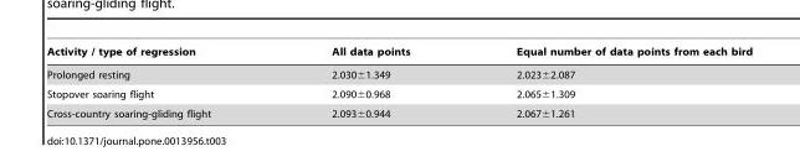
<table><thead><tr><td>Activity / type of regression</td><td>All data points</td><td>Equal number of data points from each bird</td></tr></thead><tbody><tr><td>Prolonged resting</td><td>2.030±1.349</td><td>2.023±2.087</td></tr><tr><td>Stopover soaring flight</td><td>2.090±0.968</td><td>2.065±1.309</td></tr><tr><td>Cross-country soaring-gliding flight</td><td>2.093±0.944</td><td>2.067±1.261</td></tr></tbody></table>